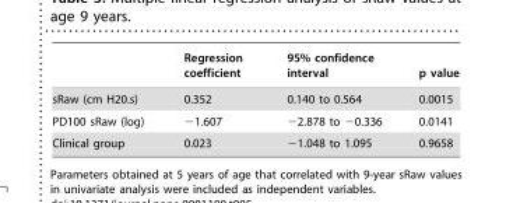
<table><thead><tr><td></td><td>Regression coefficient</td><td>95% confidence interval</td><td>p value</td></tr></thead><tbody><tr><td>sRaw (cm H20.s)</td><td>0.352</td><td>0.140 to 0.564</td><td>0.0015</td></tr><tr><td>PD100 sRaw (log)</td><td>−1.607</td><td>−2.878 to −0.336</td><td>0.0141</td></tr><tr><td>Clinical group</td><td>0.023</td><td>−1.048 to 1.095</td><td>0.9658</td></tr></tbody></table>